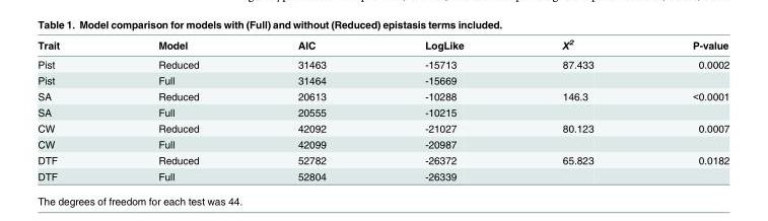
<table><thead><tr><td>Trait</td><td>Model</td><td>AIC</td><td>LogLike</td><td>X<sup>2</sup></td><td>P-value</td></tr></thead><tbody><tr><td>Pist</td><td>Reduced</td><td>31463</td><td>-15713</td><td>87.433</td><td>0.0002</td></tr><tr><td>Pist</td><td>Full</td><td>31464</td><td>-15669</td><td></td><td></td></tr><tr><td>SA</td><td>Reduced</td><td>20613</td><td>-10288</td><td>146.3</td><td>&lt;0.0001</td></tr><tr><td>SA</td><td>Full</td><td>20555</td><td>-10215</td><td></td><td></td></tr><tr><td>CW</td><td>Reduced</td><td>42092</td><td>-21027</td><td>80.123</td><td>0.0007</td></tr><tr><td>CW</td><td>Full</td><td>42099</td><td>-20987</td><td></td><td></td></tr><tr><td>DTF</td><td>Reduced</td><td>52782</td><td>-26372</td><td>65.823</td><td>0.0182</td></tr><tr><td>DTF</td><td>Full</td><td>52804</td><td>-26339</td><td></td><td></td></tr></tbody></table>